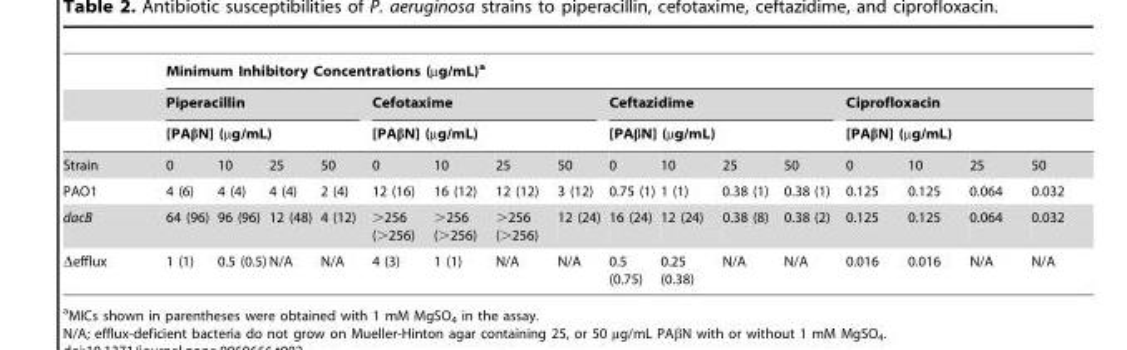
<table><thead><tr><td rowspan="4">Strain</td><td colspan="16">Minimum Inhibitory Concentrations (µg/mL)<sup>a</sup></td></tr><tr><td rowspan="2" colspan="4">Piperacillin [PAβN] (µg/mL)</td><td rowspan="2" colspan="4">Cefotaxime [PAβN] (µg/mL)</td><td rowspan="2" colspan="4">Ceftazidime [PAβN] (µg/mL)</td><td rowspan="2" colspan="4">Ciprofloxacin [PAβN] (µg/mL)</td></tr><tr></tr><tr><td>0</td><td>10</td><td>25</td><td>50</td><td>0</td><td>10</td><td>25</td><td>50</td><td>0</td><td>10</td><td>25</td><td>50</td><td>0</td><td>10</td><td>25</td><td>50</td></tr></thead><tbody><tr><td>PAO1</td><td>4 (6)</td><td>4 (4)</td><td>4 (4)</td><td>2 (4)</td><td>12 (16)</td><td>16 (12)</td><td>12 (12)</td><td>3 (12)</td><td>0.75 (1)</td><td>1 (1)</td><td>0.38 (1)</td><td>0.38 (1)</td><td>0.125</td><td>0.125</td><td>0.064</td><td>0.032</td></tr><tr><td>dacB</td><td>64 (96)</td><td>96 (96)</td><td>12 (48)</td><td>4 (12)</td><td>&gt;256 (&gt;256)</td><td>&gt;256 (&gt;256)</td><td>&gt;256 (&gt;256)</td><td>12 (24)</td><td>16 (24)</td><td>12 (24)</td><td>0.38 (8)</td><td>0.38 (2)</td><td>0.125</td><td>0.125</td><td>0.064</td><td>0.032</td></tr><tr><td>Δefflux</td><td>1 (1)</td><td>0.5 (0.5)</td><td>N/A</td><td>N/A</td><td>4 (3)</td><td>1 (1)</td><td>N/A</td><td>N/A</td><td>0.5 (0.75)</td><td>0.25 (0.38)</td><td>N/A</td><td>N/A</td><td>0.016</td><td>0.016</td><td>N/A</td><td>N/A</td></tr></tbody></table>